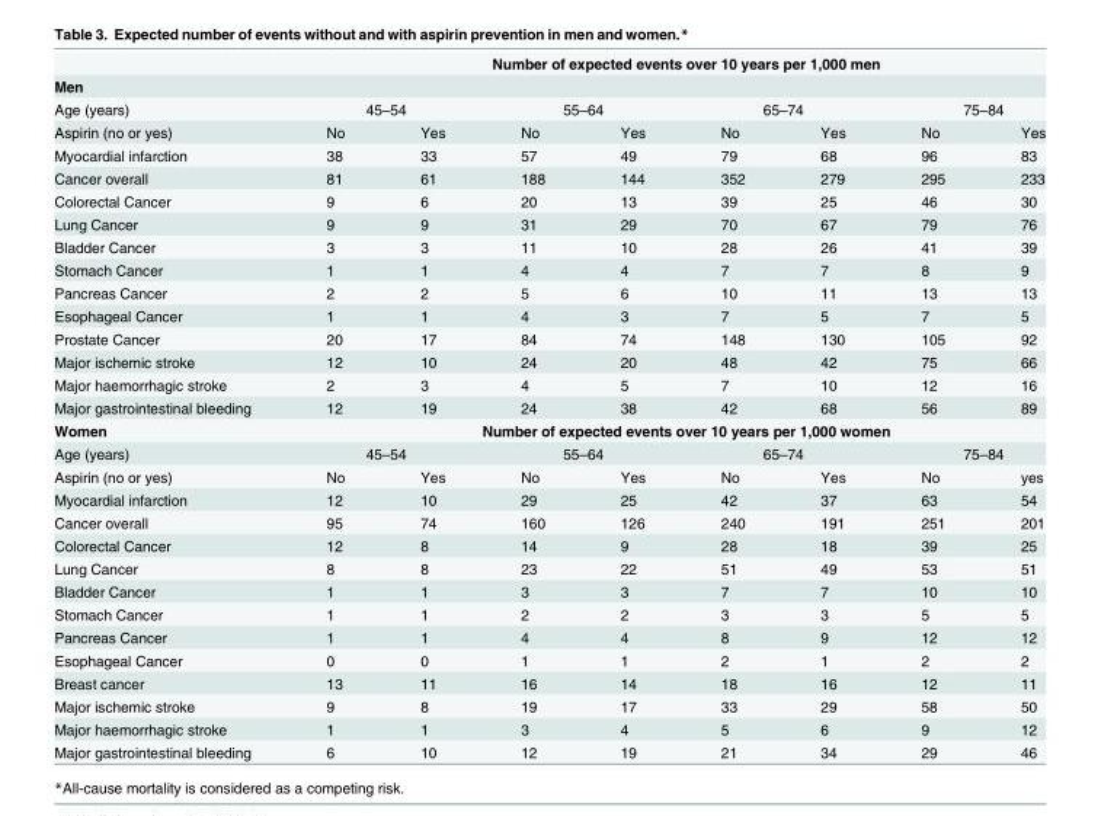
<table><thead><tr><td rowspan="4">Men Age (years) Aspirin (no or yes)</td><td colspan="8">Number of expected events over 10 years per 1,000 men</td></tr><tr><td colspan="4"></td><td colspan="4"></td></tr><tr><td colspan="2">45–54</td><td colspan="2">55–64</td><td colspan="2">65–74</td><td colspan="2">75–84</td></tr><tr><td>No</td><td>Yes</td><td>No</td><td>Yes</td><td>No</td><td>Yes</td><td>No</td><td>Yes</td></tr></thead><tbody><tr><td>Myocardial infarction</td><td>38</td><td>33</td><td>57</td><td>49</td><td>79</td><td>68</td><td>96</td><td>83</td></tr><tr><td>Cancer overall</td><td>81</td><td>61</td><td>188</td><td>144</td><td>352</td><td>279</td><td>295</td><td>233</td></tr><tr><td>Colorectal Cancer</td><td>9</td><td>6</td><td>20</td><td>13</td><td>39</td><td>25</td><td>46</td><td>30</td></tr><tr><td>Lung Cancer</td><td>9</td><td>9</td><td>31</td><td>29</td><td>70</td><td>67</td><td>79</td><td>76</td></tr><tr><td>Bladder Cancer</td><td>3</td><td>3</td><td>11</td><td>10</td><td>28</td><td>26</td><td>41</td><td>39</td></tr><tr><td>Stomach Cancer</td><td>1</td><td>1</td><td>4</td><td>4</td><td>7</td><td>7</td><td>8</td><td>9</td></tr><tr><td>Pancreas Cancer</td><td>2</td><td>2</td><td>5</td><td>6</td><td>10</td><td>11</td><td>13</td><td>13</td></tr><tr><td>Esophageal Cancer</td><td>1</td><td>1</td><td>4</td><td>3</td><td>7</td><td>5</td><td>7</td><td>5</td></tr><tr><td>Prostate Cancer</td><td>20</td><td>17</td><td>84</td><td>74</td><td>148</td><td>130</td><td>105</td><td>92</td></tr><tr><td>Major ischemic stroke</td><td>12</td><td>10</td><td>24</td><td>20</td><td>48</td><td>42</td><td>75</td><td>66</td></tr><tr><td>Major haemorrhagic stroke</td><td>2</td><td>3</td><td>4</td><td>5</td><td>7</td><td>10</td><td>12</td><td>16</td></tr><tr><td>Major gastrointestinal bleeding</td><td>12</td><td>19</td><td>24</td><td>38</td><td>42</td><td>68</td><td>56</td><td>89</td></tr><tr><td>Women</td><td colspan="8">Number of expected events over 10 years per 1,000 women</td></tr><tr><td>Age (years)</td><td colspan="2">45–54</td><td colspan="2">55–64</td><td colspan="2">65–74</td><td colspan="2">75–84</td></tr><tr><td>Aspirin (no or yes)</td><td>No</td><td>Yes</td><td>No</td><td>Yes</td><td>No</td><td>Yes</td><td>No</td><td>yes</td></tr><tr><td>Myocardial infarction</td><td>12</td><td>10</td><td>29</td><td>25</td><td>42</td><td>37</td><td>63</td><td>54</td></tr><tr><td>Cancer overall</td><td>95</td><td>74</td><td>160</td><td>126</td><td>240</td><td>191</td><td>251</td><td>201</td></tr><tr><td>Colorectal Cancer</td><td>12</td><td>8</td><td>14</td><td>9</td><td>28</td><td>18</td><td>39</td><td>25</td></tr><tr><td>Lung Cancer</td><td>8</td><td>8</td><td>23</td><td>22</td><td>51</td><td>49</td><td>53</td><td>51</td></tr><tr><td>Bladder Cancer</td><td>1</td><td>1</td><td>3</td><td>3</td><td>7</td><td>7</td><td>10</td><td>10</td></tr><tr><td>Stomach Cancer</td><td>1</td><td>1</td><td>2</td><td>2</td><td>3</td><td>3</td><td>5</td><td>5</td></tr><tr><td>Pancreas Cancer</td><td>1</td><td>1</td><td>4</td><td>4</td><td>8</td><td>9</td><td>12</td><td>12</td></tr><tr><td>Esophageal Cancer</td><td>0</td><td>0</td><td>1</td><td>1</td><td>2</td><td>1</td><td>2</td><td>2</td></tr><tr><td>Breast cancer</td><td>13</td><td>11</td><td>16</td><td>14</td><td>18</td><td>16</td><td>12</td><td>11</td></tr><tr><td>Major ischemic stroke</td><td>9</td><td>8</td><td>19</td><td>17</td><td>33</td><td>29</td><td>58</td><td>50</td></tr><tr><td>Major haemorrhagic stroke</td><td>1</td><td>1</td><td>3</td><td>4</td><td>5</td><td>6</td><td>9</td><td>12</td></tr><tr><td>Major gastrointestinal bleeding</td><td>6</td><td>10</td><td>12</td><td>19</td><td>21</td><td>34</td><td>29</td><td>46</td></tr></tbody></table>